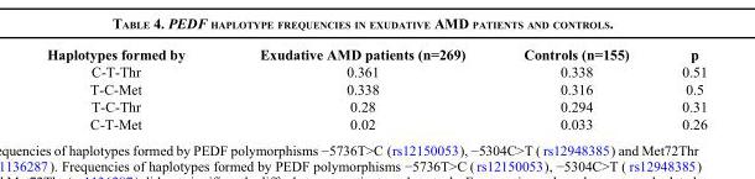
<table><thead><tr><td>Haplotypes formed by</td><td>Exudative AMD patients (n=269)</td><td>Controls (n=155)</td><td>p</td></tr></thead><tbody><tr><td>C-T-Thr</td><td>0.361</td><td>0.338</td><td>0.51</td></tr><tr><td>T-C-Met</td><td>0.338</td><td>0.316</td><td>0.5</td></tr><tr><td>T-C-Thr</td><td>0.28</td><td>0.294</td><td>0.31</td></tr><tr><td>C-T-Met</td><td>0.02</td><td>0.033</td><td>0.26</td></tr></tbody></table>